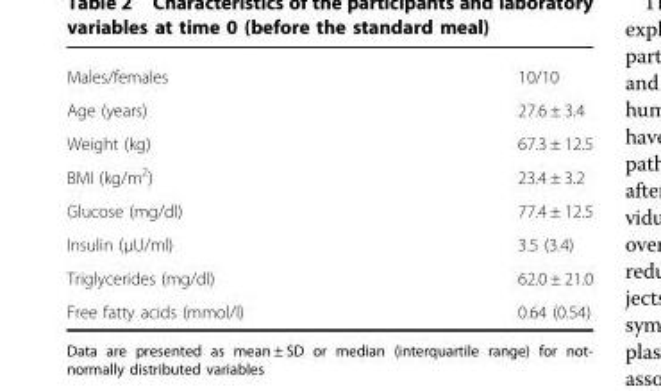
<table><tbody><tr><td>Males/females</td><td>10/10</td></tr><tr><td>Age (years)</td><td>27.6 ± 3.4</td></tr><tr><td>Weight (kg)</td><td>67.3 ± 12.5</td></tr><tr><td>BMI (kg/m<sup>2</sup>)</td><td>23.4 ± 3.2</td></tr><tr><td>Glucose (mg/dl)</td><td>77.4 ± 12.5</td></tr><tr><td>Insulin (µU/ml)</td><td>3.5 (3.4)</td></tr><tr><td>Triglycerides (mg/dl)</td><td>62.0 ± 21.0</td></tr><tr><td>Free fatty acids (mmol/l)</td><td>0.64 (0.54)</td></tr></tbody></table>